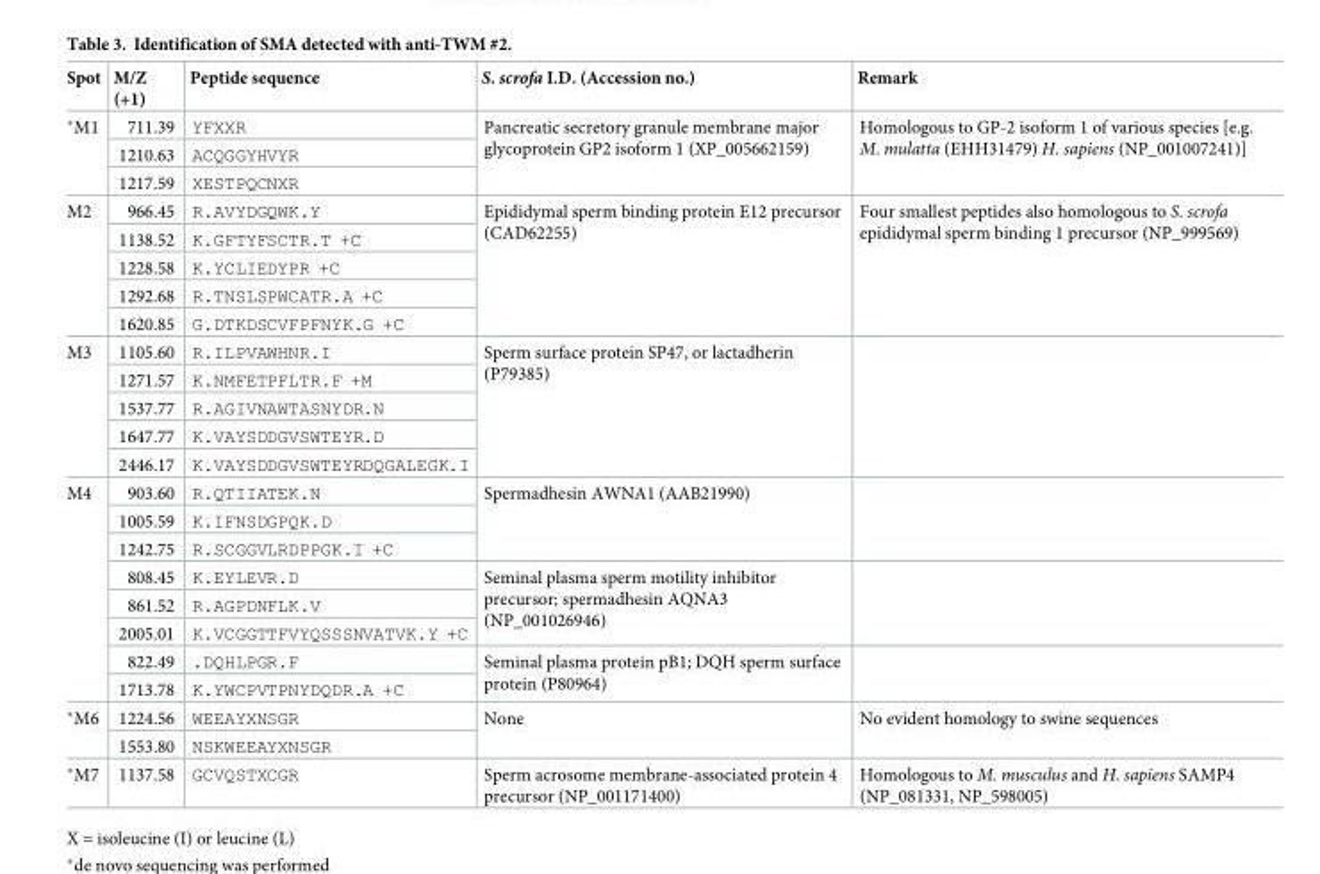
<table><thead><tr><td>Spot</td><td>M/Z (+1)</td><td>Peptide sequence</td><td>S. scrofa I.D. (Accession no.)</td><td>Remark</td></tr></thead><tbody><tr><td rowspan="3">*M1</td><td>711.39</td><td>YFXXR</td><td rowspan="3">Pancreatic secretory granule membrane major glycoprotein GP2 isoform 1 (XP_005662159)</td><td rowspan="3">Homologous to GP-2 isoform 1 of various species [e.g. M. mulatta (EHH31479) H. sapiens (NP_001007241)]</td></tr><tr><td>1210.63</td><td>ACQGGYHVYR</td></tr><tr><td>1217.59</td><td>XESTPQCNXR</td></tr><tr><td rowspan="5">M2</td><td>966.45</td><td>R.AVYDGQWK.Y</td><td rowspan="5">Epididymal sperm binding protein E12 precursor (CAD62255)</td><td rowspan="5">Four smallest peptides also homologous to S. scrofa epididymal sperm binding 1 precursor (NP_999569)</td></tr><tr><td>1138.52</td><td>K.GFTYFSCTR.T +C</td></tr><tr><td>1228.58</td><td>K.YCLIEDYPR +C</td></tr><tr><td>1292.68</td><td>R.TNSLSPWCATR.A +C</td></tr><tr><td>1620.85</td><td>G.DTKDSCVFPFNYK.G +C</td></tr><tr><td rowspan="5">M3</td><td>1105.60</td><td>R.ILPVAWHNR.I</td><td rowspan="5">Sperm surface protein SP47, or lactadherin (P79385)</td><td rowspan="5"></td></tr><tr><td>1271.57</td><td>K.NMFETPFLTR.F +M</td></tr><tr><td>1537.77</td><td>R.AGIVNAWTASNYDR.N</td></tr><tr><td>1647.77</td><td>K.VAYSDDGVSWTEYR.D</td></tr><tr><td>2446.17</td><td>K.VAYSDDGVSWTEYRDQGALEGK.I</td></tr><tr><td rowspan="8">M4</td><td>903.60</td><td>R.QTIIATEK.N</td><td rowspan="3">Spermadhesin AWNA1 (AAB21990)</td><td rowspan="3"></td></tr><tr><td>1005.59</td><td>K.IFNSDGPQK.D</td></tr><tr><td>1242.75</td><td>R.SCGGVLRDPPGK.I +C</td></tr><tr><td>808.45</td><td>K.EYLEVR.D</td><td rowspan="3">Seminal plasma sperm motility inhibitor precursor; spermadhesin AQNA3 (NP_001026946)</td><td rowspan="3"></td></tr><tr><td>861.52</td><td>R.AGPDNFLK.V</td></tr><tr><td>2005.01</td><td>K.VCGGTTFVYQSSSNVATVK.Y +C</td></tr><tr><td>822.49</td><td>.DQHLPGR.F</td><td rowspan="2">Seminal plasma protein pB1; DQH sperm surface protein (P80964)</td><td rowspan="2"></td></tr><tr><td>1713.78</td><td>K.YWCPVTPNYDQDR.A +C</td></tr><tr><td rowspan="2">*M6</td><td>1224.56</td><td>WEEAYXNSGR</td><td rowspan="2">None</td><td rowspan="2">No evident homology to swine sequences</td></tr><tr><td>1553.80</td><td>NSKWEEAYXNSGR</td></tr><tr><td>*M7</td><td>1137.58</td><td>GCVQSTXCGR</td><td>Sperm acrosome membrane-associated protein 4 precursor (NP_001171400)</td><td>Homologous to M. musculus and H. sapiens SAMP4 (NP_081331, NP_598005)</td></tr></tbody></table>